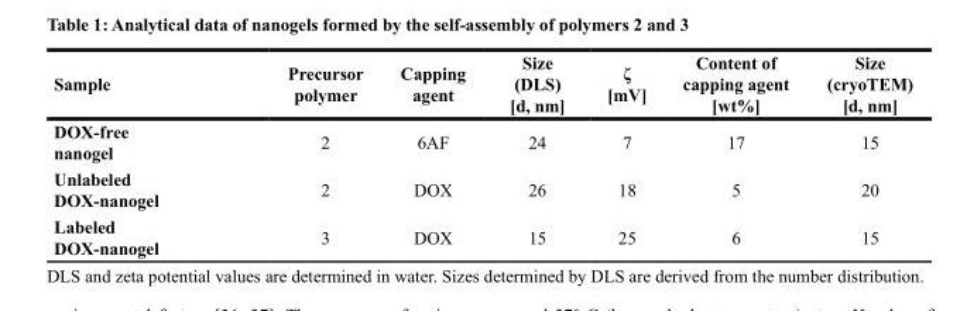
<table><thead><tr><td>Sample</td><td>Precursor polymer</td><td>Capping agent</td><td>Size (DLS) [d, nm]</td><td>ζ [mV]</td><td>Content of capping agent [wt%]</td><td>Size (cryoTEM) [d, nm]</td></tr></thead><tbody><tr><td>DOX-free nanogel</td><td>2</td><td>6AF</td><td>24</td><td>7</td><td>17</td><td>15</td></tr><tr><td>Unlabeled DOX-nanogel</td><td>2</td><td>DOX</td><td>26</td><td>18</td><td>5</td><td>20</td></tr><tr><td>Labeled DOX-nanogel</td><td>3</td><td>DOX</td><td>15</td><td>25</td><td>6</td><td>15</td></tr></tbody></table>